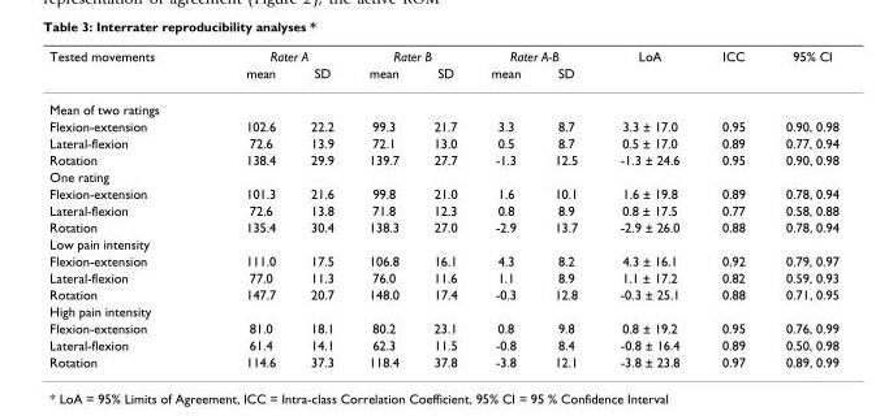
<table><thead><tr><td rowspan="2">Tested movements</td><td colspan="2">Rater A</td><td colspan="2">Rater B</td><td colspan="2">Rater A-B</td><td rowspan="2">LoA</td><td rowspan="2">ICC</td><td rowspan="2">95% CI</td></tr><tr><td>mean</td><td>SD</td><td>mean</td><td>SD</td><td>mean</td><td>SD</td></tr></thead><tbody><tr><td colspan="10">Mean of two ratings</td></tr><tr><td>Flexion-extension</td><td>102.6</td><td>22.2</td><td>99.3</td><td>21.7</td><td>3.3</td><td>8.7</td><td>3.3 ± 17.0</td><td>0.95</td><td>0.90, 0.98</td></tr><tr><td>Lateral-flexion</td><td>72.6</td><td>13.9</td><td>72.1</td><td>13.0</td><td>0.5</td><td>8.7</td><td>0.5 ± 17.0</td><td>0.89</td><td>0.77, 0.94</td></tr><tr><td>Rotation</td><td>138.4</td><td>29.9</td><td>139.7</td><td>27.7</td><td>-1.3</td><td>12.5</td><td>-1.3 ± 24.6</td><td>0.95</td><td>0.90, 0.98</td></tr><tr><td colspan="10">One rating</td></tr><tr><td>Flexion-extension</td><td>101.3</td><td>21.6</td><td>99.8</td><td>21.0</td><td>1.6</td><td>10.1</td><td>1.6 ± 19.8</td><td>0.89</td><td>0.78, 0.94</td></tr><tr><td>Lateral-flexion</td><td>72.6</td><td>13.8</td><td>71.8</td><td>12.3</td><td>0.8</td><td>8.9</td><td>0.8 ± 17.5</td><td>0.77</td><td>0.58, 0.88</td></tr><tr><td>Rotation</td><td>135.4</td><td>30.4</td><td>138.3</td><td>27.0</td><td>-2.9</td><td>13.7</td><td>-2.9 ± 26.0</td><td>0.88</td><td>0.78, 0.94</td></tr><tr><td colspan="10">Low pain intensity</td></tr><tr><td>Flexion-extension</td><td>111.0</td><td>17.5</td><td>106.8</td><td>16.1</td><td>4.3</td><td>8.2</td><td>4.3 ± 16.1</td><td>0.92</td><td>0.79, 0.97</td></tr><tr><td>Lateral-flexion</td><td>77.0</td><td>11.3</td><td>76.0</td><td>11.6</td><td>1.1</td><td>8.9</td><td>1.1 ± 17.2</td><td>0.82</td><td>0.59, 0.93</td></tr><tr><td>Rotation</td><td>147.7</td><td>20.7</td><td>148.0</td><td>17.4</td><td>-0.3</td><td>12.8</td><td>-0.3 ± 25.1</td><td>0.88</td><td>0.71, 0.95</td></tr><tr><td colspan="10">High pain intensity</td></tr><tr><td>Flexion-extension</td><td>81.0</td><td>18.1</td><td>80.2</td><td>23.1</td><td>0.8</td><td>9.8</td><td>0.8 ± 19.2</td><td>0.95</td><td>0.76, 0.99</td></tr><tr><td>Lateral-flexion</td><td>61.4</td><td>14.1</td><td>62.3</td><td>11.5</td><td>-0.8</td><td>8.4</td><td>-0.8 ± 16.4</td><td>0.89</td><td>0.50, 0.98</td></tr><tr><td>Rotation</td><td>114.6</td><td>37.3</td><td>118.4</td><td>37.8</td><td>-3.8</td><td>12.1</td><td>-3.8 ± 23.8</td><td>0.97</td><td>0.89, 0.99</td></tr></tbody></table>